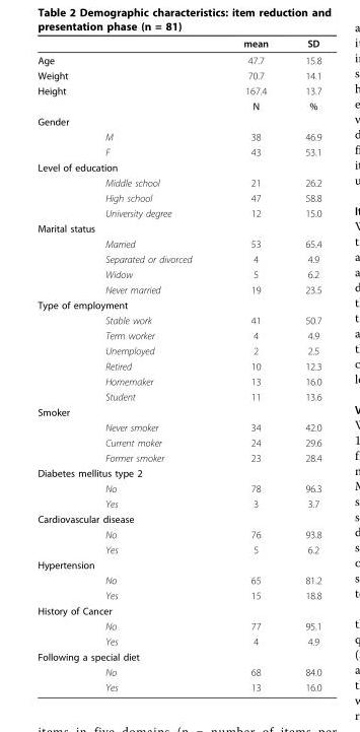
<table><thead><tr><td></td><td></td><td>mean</td><td>SD</td></tr></thead><tbody><tr><td>Age</td><td></td><td>47.7</td><td>15.8</td></tr><tr><td>Weight</td><td></td><td>70.7</td><td>14.1</td></tr><tr><td rowspan="2">Height</td><td></td><td>167.4</td><td>13.7</td></tr><tr><td></td><td>N</td><td>%</td></tr><tr><td colspan="4">Gender</td></tr><tr><td></td><td>M</td><td>38</td><td>46.9</td></tr><tr><td></td><td>F</td><td>43</td><td>53.1</td></tr><tr><td colspan="4">Level of education</td></tr><tr><td></td><td>Middle school</td><td>21</td><td>26.2</td></tr><tr><td></td><td>High school</td><td>47</td><td>58.8</td></tr><tr><td></td><td>University degree</td><td>12</td><td>15.0</td></tr><tr><td colspan="4">Marital status</td></tr><tr><td></td><td>Married</td><td>53</td><td>65.4</td></tr><tr><td></td><td>Separated or divorced</td><td>4</td><td>4.9</td></tr><tr><td></td><td>Widow</td><td>5</td><td>6.2</td></tr><tr><td></td><td>Never married</td><td>19</td><td>23.5</td></tr><tr><td colspan="4">Type of employment</td></tr><tr><td></td><td>Stable work</td><td>41</td><td>50.7</td></tr><tr><td></td><td>Term worker</td><td>4</td><td>4.9</td></tr><tr><td></td><td>Unemployed</td><td>2</td><td>2.5</td></tr><tr><td></td><td>Retired</td><td>10</td><td>12.3</td></tr><tr><td></td><td>Homemaker</td><td>13</td><td>16.0</td></tr><tr><td></td><td>Student</td><td>11</td><td>13.6</td></tr><tr><td colspan="4">Smoker</td></tr><tr><td></td><td>Never smoker</td><td>34</td><td>42.0</td></tr><tr><td></td><td>Current moker</td><td>24</td><td>29.6</td></tr><tr><td></td><td>Former smoker</td><td>23</td><td>28.4</td></tr><tr><td colspan="4">Diabetes mellitus type 2</td></tr><tr><td></td><td>No</td><td>78</td><td>96.3</td></tr><tr><td></td><td>Yes</td><td>3</td><td>3.7</td></tr><tr><td colspan="4">Cardiovascular disease</td></tr><tr><td></td><td>No</td><td>76</td><td>93.8</td></tr><tr><td></td><td>Yes</td><td>5</td><td>6.2</td></tr><tr><td colspan="4">Hypertension</td></tr><tr><td></td><td>No</td><td>65</td><td>81.2</td></tr><tr><td></td><td>Yes</td><td>15</td><td>18.8</td></tr><tr><td colspan="4">History of Cancer</td></tr><tr><td></td><td>No</td><td>77</td><td>95.1</td></tr><tr><td></td><td>Yes</td><td>4</td><td>4.9</td></tr><tr><td colspan="4">Following a special diet</td></tr><tr><td></td><td>No</td><td>68</td><td>84.0</td></tr><tr><td></td><td>Yes</td><td>13</td><td>16.0</td></tr></tbody></table>